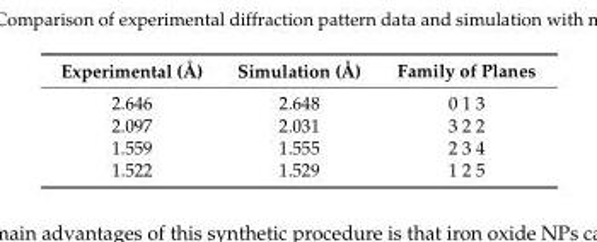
<table><thead><tr><td>Experimental (Å)</td><td>Simulation (Å)</td><td>Family of Planes</td></tr></thead><tbody><tr><td>2.646</td><td>2.648</td><td>0 1 3</td></tr><tr><td>2.097</td><td>2.031</td><td>3 2 2</td></tr><tr><td>1.559</td><td>1.555</td><td>2 3 4</td></tr><tr><td>1.522</td><td>1.529</td><td>1 2 5</td></tr></tbody></table>